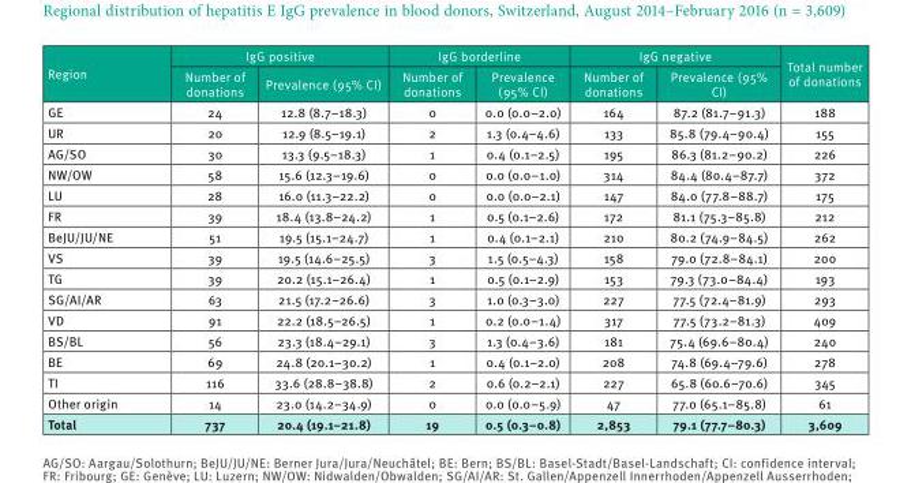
<table><thead><tr><td rowspan="2">Region</td><td colspan="2">IgG positive</td><td colspan="2">IgG borderline</td><td colspan="2">IgG negative</td><td rowspan="2">Total number of donations</td></tr><tr><td>Number of donations</td><td>Prevalence (95% CI)</td><td>Number of donations</td><td>Prevalence (95% CI)</td><td>Number of donations</td><td>Prevalence (95% CI)</td></tr></thead><tbody><tr><td>GE</td><td>24</td><td>12.8 (8.7–18.3)</td><td>0</td><td>0.0 (0.0–2.0)</td><td>164</td><td>87.2 (81.7–91.3)</td><td>188</td></tr><tr><td>UR</td><td>20</td><td>12.9 (8.5–19.1)</td><td>2</td><td>1.3 (0.4–4.6)</td><td>133</td><td>85.8 (79.4–90.4)</td><td>155</td></tr><tr><td>AG/SO</td><td>30</td><td>13.3 (9.5–18.3)</td><td>1</td><td>0.4 (0.1–2.5)</td><td>195</td><td>86.3 (81.2–90.2)</td><td>226</td></tr><tr><td>NW/OW</td><td>58</td><td>15.6 (12.3–19.6)</td><td>0</td><td>0.0 (0.0–1.0)</td><td>314</td><td>84.4 (80.4–87.7)</td><td>372</td></tr><tr><td>LU</td><td>28</td><td>16.0 (11.3–22.2)</td><td>0</td><td>0.0 (0.0–2.1)</td><td>147</td><td>84.0 (77.8–88.7)</td><td>175</td></tr><tr><td>FR</td><td>39</td><td>18.4 (13.8–24.2)</td><td>1</td><td>0.5 (0.1–2.6)</td><td>172</td><td>81.1 (75.3–85.8)</td><td>212</td></tr><tr><td>BeJU/JU/NE</td><td>51</td><td>19.5 (15.1–24.7)</td><td>1</td><td>0.4 (0.1–2.1)</td><td>210</td><td>80.2 (74.9–84.5)</td><td>262</td></tr><tr><td>VS</td><td>39</td><td>19.5 (14.6–25.5)</td><td>3</td><td>1.5 (0.5–4.3)</td><td>158</td><td>79.0 (72.8–84.1)</td><td>200</td></tr><tr><td>TG</td><td>39</td><td>20.2 (15.1–26.4)</td><td>1</td><td>0.5 (0.1–2.9)</td><td>153</td><td>79.3 (73.0–84.4)</td><td>193</td></tr><tr><td>SG/AI/AR</td><td>63</td><td>21.5 (17.2–26.6)</td><td>3</td><td>1.0 (0.3–3.0)</td><td>227</td><td>77.5 (72.4–81.9)</td><td>293</td></tr><tr><td>VD</td><td>91</td><td>22.2 (18.5–26.5)</td><td>1</td><td>0.2 (0.0–1.4)</td><td>317</td><td>77.5 (73.2–81.3)</td><td>409</td></tr><tr><td>BS/BL</td><td>56</td><td>23.3 (18.4–29.1)</td><td>3</td><td>1.3 (0.4–3.6)</td><td>181</td><td>75.4 (69.6–80.4)</td><td>240</td></tr><tr><td>BE</td><td>69</td><td>24.8 (20.1–30.2)</td><td>1</td><td>0.4 (0.1–2.0)</td><td>208</td><td>74.8 (69.4–79.6)</td><td>278</td></tr><tr><td>TI</td><td>116</td><td>33.6 (28.8–38.8)</td><td>2</td><td>0.6 (0.2–2.1)</td><td>227</td><td>65.8 (60.6–70.6)</td><td>345</td></tr><tr><td>Other origin</td><td>14</td><td>23.0 (14.2–34.9)</td><td>0</td><td>0.0 (0.0–5.9)</td><td>47</td><td>77.0 (65.1–85.8)</td><td>61</td></tr><tr><td>Total</td><td>737</td><td>20.4 (19.1–21.8)</td><td>19</td><td>0.5 (0.3–0.8)</td><td>2,853</td><td>79.1 (77.7–80.3)</td><td>3,609</td></tr></tbody></table>